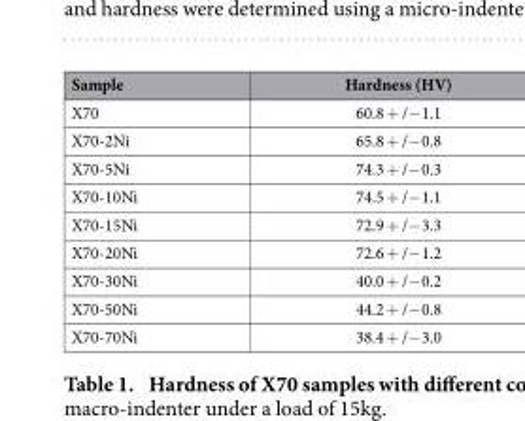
<table><thead><tr><td>Sample</td><td>Hardness (HV)</td></tr></thead><tbody><tr><td>X70</td><td>60.8 + /− 1.1</td></tr><tr><td>X70-2Ni</td><td>65.8 + /− 0.8</td></tr><tr><td>X70-5Ni</td><td>74.3 + /− 0.3</td></tr><tr><td>X70-10Ni</td><td>74.5 + /− 1.1</td></tr><tr><td>X70-15Ni</td><td>72.9 + /− 3.3</td></tr><tr><td>X70-20Ni</td><td>72.6 + /− 1.2</td></tr><tr><td>X70-30Ni</td><td>40.0 + /− 0.2</td></tr><tr><td>X70-50Ni</td><td>44.2 + /− 0.8</td></tr><tr><td>X70-70Ni</td><td>38.4 + /− 3.0</td></tr></tbody></table>